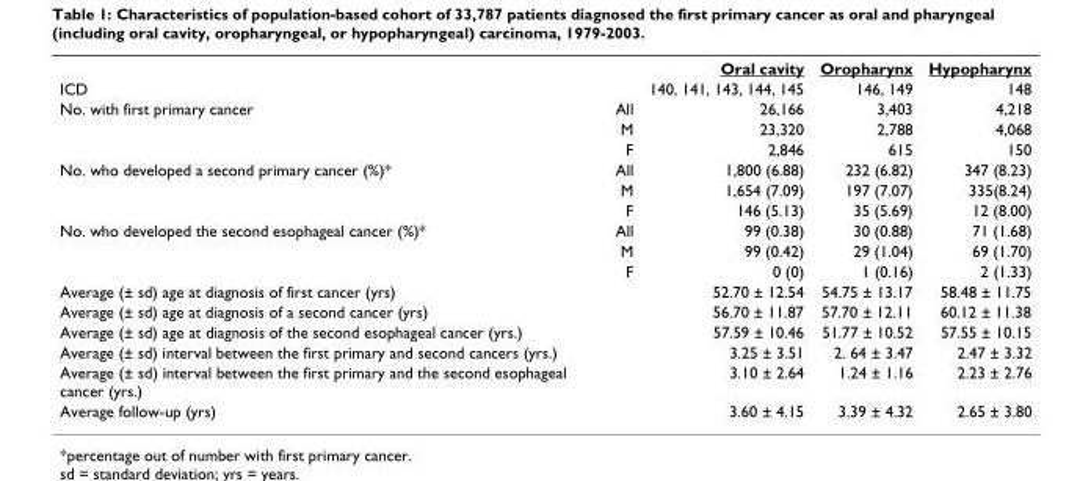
<table><thead><tr><td></td><td></td><td>Oral cavity</td><td>Oropharynx</td><td>Hypopharynx</td></tr></thead><tbody><tr><td>ICD</td><td></td><td>140, 141, 143, 144, 145</td><td>146, 149</td><td>148</td></tr><tr><td rowspan="3">No. with first primary cancer</td><td>All</td><td>26,166</td><td>3,403</td><td>4,218</td></tr><tr><td>M</td><td>23,320</td><td>2,788</td><td>4,068</td></tr><tr><td>F</td><td>2,846</td><td>615</td><td>150</td></tr><tr><td rowspan="3">No. who developed a second primary cancer (%)*</td><td>All</td><td>1,800 (6.88)</td><td>232 (6.82)</td><td>347 (8.23)</td></tr><tr><td>M</td><td>1,654 (7.09)</td><td>197 (7.07)</td><td>335(8.24)</td></tr><tr><td>F</td><td>146 (5.13)</td><td>35 (5.69)</td><td>12 (8.00)</td></tr><tr><td rowspan="3">No. who developed the second esophageal cancer (%)*</td><td>All</td><td>99 (0.38)</td><td>30 (0.88)</td><td>71 (1.68)</td></tr><tr><td>M</td><td>99 (0.42)</td><td>29 (1.04)</td><td>69 (1.70)</td></tr><tr><td>F</td><td>0 (0)</td><td>1 (0.16)</td><td>2 (1.33)</td></tr><tr><td>Average (± sd) age at diagnosis of first cancer (yrs)</td><td></td><td>52.70 ± 12.54</td><td>54.75 ± 13.17</td><td>58.48 ± 11.75</td></tr><tr><td>Average (± sd) age at diagnosis of a second cancer (yrs)</td><td></td><td>56.70 ± 11.87</td><td>57.70 ± 12.11</td><td>60.12 ± 11.38</td></tr><tr><td>Average (± sd) age at diagnosis of the second esophageal cancer (yrs.)</td><td></td><td>57.59 ± 10.46</td><td>51.77 ± 10.52</td><td>57.55 ± 10.15</td></tr><tr><td>Average (± sd) interval between the first primary and second cancers (yrs.)</td><td></td><td>3.25 ± 3.51</td><td>2. 64 ± 3.47</td><td>2.47 ± 3.32</td></tr><tr><td>Average (± sd) interval between the first primary and the second esophageal cancer (yrs.)</td><td></td><td>3.10 ± 2.64</td><td>1.24 ± 1.16</td><td>2.23 ± 2.76</td></tr><tr><td>Average follow-up (yrs)</td><td></td><td>3.60 ± 4.15</td><td>3.39 ± 4.32</td><td>2.65 ± 3.80</td></tr></tbody></table>